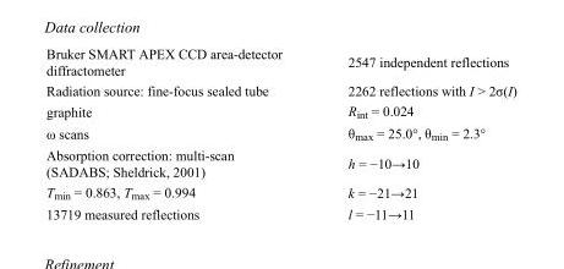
<table><tbody><tr><td>Bruker SMART APEX CCD area-detector diffractometer</td><td>2547 independent reflections</td></tr><tr><td>Radiation source: fine-focus sealed tube</td><td>2262 reflections with I &gt; 2σ(I)</td></tr><tr><td>graphite</td><td>R<sub>int</sub> = 0.024</td></tr><tr><td>ω scans</td><td>θ<sub>max</sub> = 25.0°, θ<sub>min</sub> = 2.3°</td></tr><tr><td>Absorption correction: multi-scan (SADABS; Sheldrick, 2001)</td><td>h = −10→10</td></tr><tr><td>T<sub>min</sub> = 0.863, T<sub>max</sub> = 0.994</td><td>k = −21→21</td></tr><tr><td>13719 measured reflections</td><td>l = −11→11</td></tr></tbody></table>